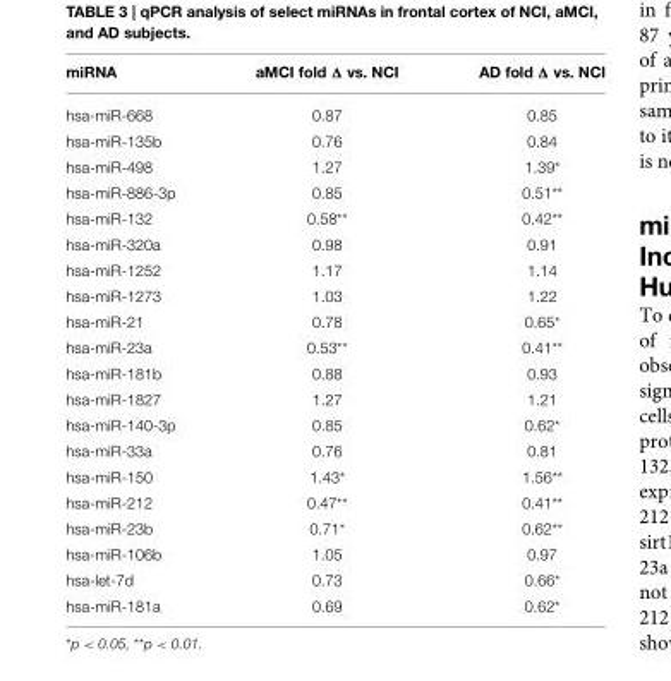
<table><thead><tr><td>miRNA</td><td>aMCI fold Δ vs. NCI</td><td>AD fold Δ vs. NCI</td></tr></thead><tbody><tr><td>hsa-miR-668</td><td>0.87</td><td>0.85</td></tr><tr><td>hsa-miR-135b</td><td>0.76</td><td>0.84</td></tr><tr><td>hsa-miR-498</td><td>1.27</td><td>1.39*</td></tr><tr><td>hsa-miR-886-3p</td><td>0.85</td><td>0.51**</td></tr><tr><td>hsa-miR-132</td><td>0.58**</td><td>0.42**</td></tr><tr><td>hsa-miR-320a</td><td>0.98</td><td>0.91</td></tr><tr><td>hsa-miR-1252</td><td>1.17</td><td>1.14</td></tr><tr><td>hsa-miR-1273</td><td>1.03</td><td>1.22</td></tr><tr><td>hsa-miR-21</td><td>0.78</td><td>0.65*</td></tr><tr><td>hsa-miR-23a</td><td>0.53**</td><td>0.41**</td></tr><tr><td>hsa-miR-181b</td><td>0.88</td><td>0.93</td></tr><tr><td>hsa-miR-1827</td><td>1.27</td><td>1.21</td></tr><tr><td>hsa-miR-140-3p</td><td>0.85</td><td>0.62*</td></tr><tr><td>hsa-miR-33a</td><td>0.76</td><td>0.81</td></tr><tr><td>hsa-miR-150</td><td>1.43*</td><td>1.56**</td></tr><tr><td>hsa-miR-212</td><td>0.47**</td><td>0.41**</td></tr><tr><td>hsa-miR-23b</td><td>0.71*</td><td>0.62**</td></tr><tr><td>hsa-miR-106b</td><td>1.05</td><td>0.97</td></tr><tr><td>hsa-let-7d</td><td>0.73</td><td>0.66*</td></tr><tr><td>hsa-miR-181a</td><td>0.69</td><td>0.62*</td></tr></tbody></table>